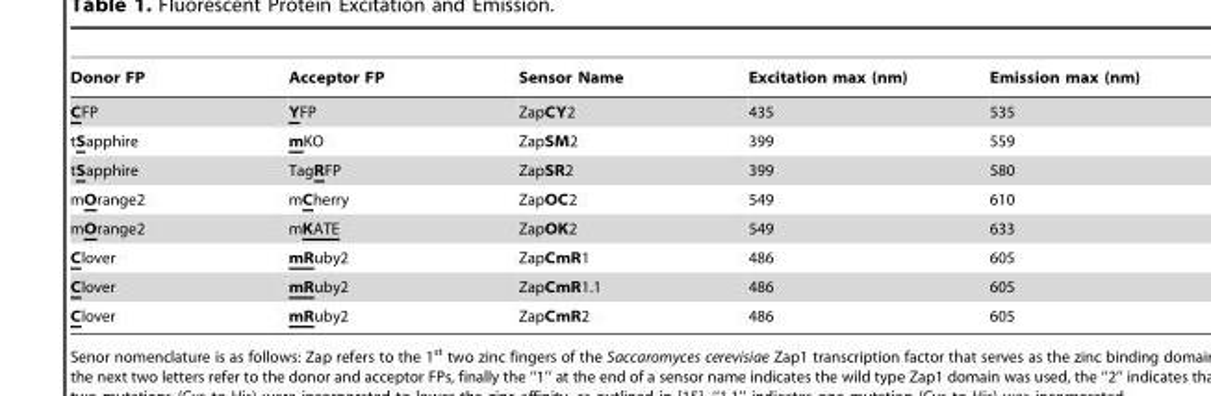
<table><thead><tr><td>Donor FP</td><td>Acceptor FP</td><td>Sensor Name</td><td>Excitation max (nm)</td><td>Emission max (nm)</td></tr></thead><tbody><tr><td>CFP</td><td>YFP</td><td>ZapCY2</td><td>435</td><td>535</td></tr><tr><td>tSapphire</td><td>mKO</td><td>ZapSM2</td><td>399</td><td>559</td></tr><tr><td>tSapphire</td><td>TagRFP</td><td>ZapSR2</td><td>399</td><td>580</td></tr><tr><td>mOrange2</td><td>mCherry</td><td>ZapOC2</td><td>549</td><td>610</td></tr><tr><td>mOrange2</td><td>mKATE</td><td>ZapOK2</td><td>549</td><td>633</td></tr><tr><td>Clover</td><td>mRuby2</td><td>ZapCmR1</td><td>486</td><td>605</td></tr><tr><td>Clover</td><td>mRuby2</td><td>ZapCmR1.1</td><td>486</td><td>605</td></tr><tr><td>Clover</td><td>mRuby2</td><td>ZapCmR2</td><td>486</td><td>605</td></tr></tbody></table>